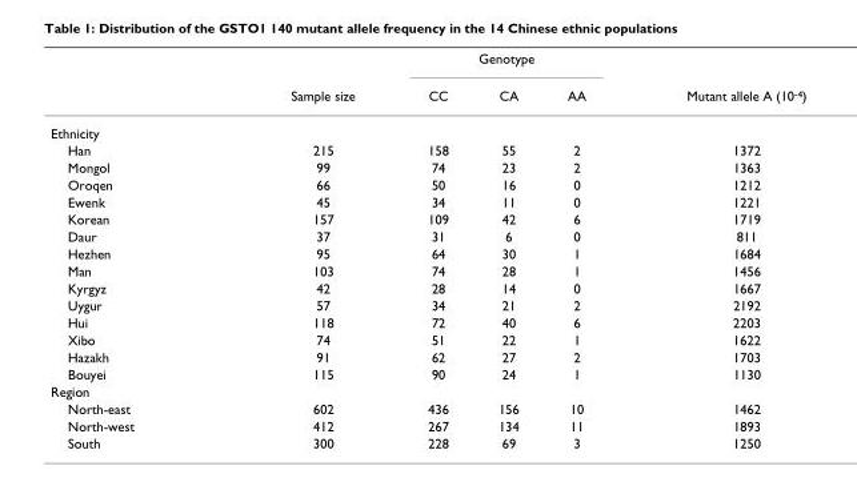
<table><thead><tr><td rowspan="2"></td><td rowspan="2">Sample size</td><td colspan="3">Genotype</td><td rowspan="2">Mutant allele A (10<sup>-4</sup>)</td></tr><tr><td>CC</td><td>CA</td><td>AA</td></tr></thead><tbody><tr><td colspan="6">Ethnicity</td></tr><tr><td>Han</td><td>215</td><td>158</td><td>55</td><td>2</td><td>1372</td></tr><tr><td>Mongol</td><td>99</td><td>74</td><td>23</td><td>2</td><td>1363</td></tr><tr><td>Oroqen</td><td>66</td><td>50</td><td>16</td><td>0</td><td>1212</td></tr><tr><td>Ewenk</td><td>45</td><td>34</td><td>11</td><td>0</td><td>1221</td></tr><tr><td>Korean</td><td>157</td><td>109</td><td>42</td><td>6</td><td>1719</td></tr><tr><td>Daur</td><td>37</td><td>31</td><td>6</td><td>0</td><td>811</td></tr><tr><td>Hezhen</td><td>95</td><td>64</td><td>30</td><td>1</td><td>1684</td></tr><tr><td>Man</td><td>103</td><td>74</td><td>28</td><td>1</td><td>1456</td></tr><tr><td>Kyrgyz</td><td>42</td><td>28</td><td>14</td><td>0</td><td>1667</td></tr><tr><td>Uygur</td><td>57</td><td>34</td><td>21</td><td>2</td><td>2192</td></tr><tr><td>Hui</td><td>118</td><td>72</td><td>40</td><td>6</td><td>2203</td></tr><tr><td>Xibo</td><td>74</td><td>51</td><td>22</td><td>1</td><td>1622</td></tr><tr><td>Hazakh</td><td>91</td><td>62</td><td>27</td><td>2</td><td>1703</td></tr><tr><td>Bouyei</td><td>115</td><td>90</td><td>24</td><td>1</td><td>1130</td></tr><tr><td colspan="6">Region</td></tr><tr><td>North-east</td><td>602</td><td>436</td><td>156</td><td>10</td><td>1462</td></tr><tr><td>North-west</td><td>412</td><td>267</td><td>134</td><td>11</td><td>1893</td></tr><tr><td>South</td><td>300</td><td>228</td><td>69</td><td>3</td><td>1250</td></tr></tbody></table>